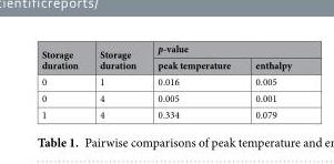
<table><thead><tr><td rowspan="2">Storage duration</td><td rowspan="2">Storage duration</td><td colspan="2">p-value</td></tr><tr><td>peak temperature</td><td>enthalpy</td></tr></thead><tbody><tr><td>0</td><td>1</td><td>0.016</td><td>0.005</td></tr><tr><td>0</td><td>4</td><td>0.005</td><td>0.001</td></tr><tr><td>1</td><td>4</td><td>0.334</td><td>0.079</td></tr></tbody></table>